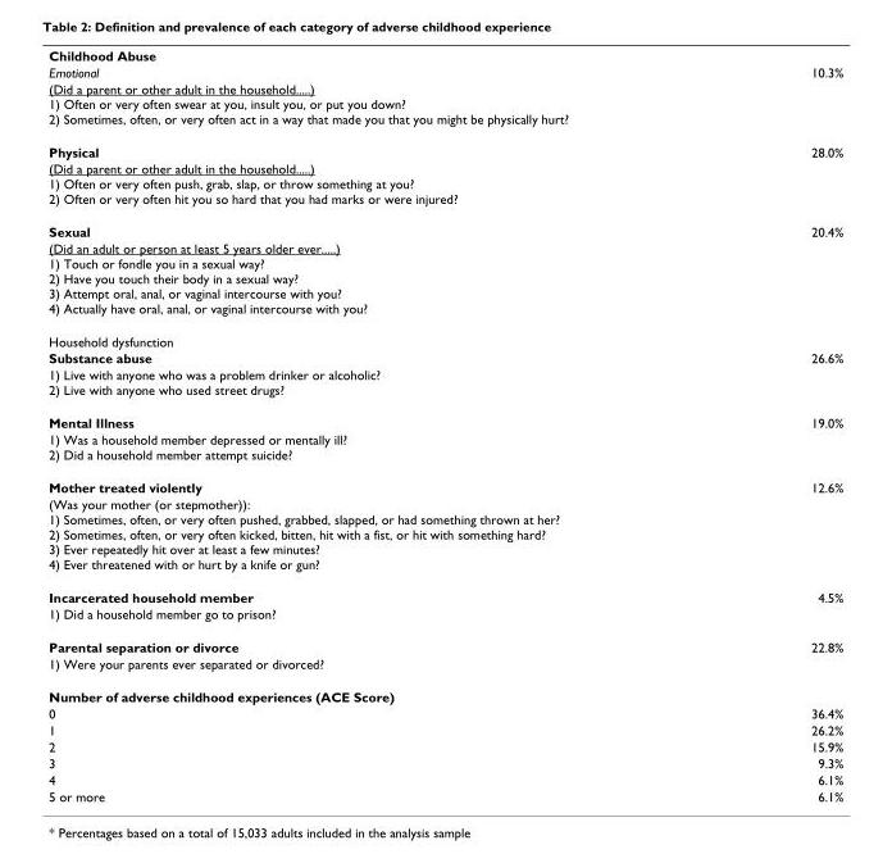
<table><tbody><tr><td colspan="2">Childhood Abuse</td></tr><tr><td>Emotional</td><td>10.3%</td></tr><tr><td colspan="2">(Did a parent or other adult in the household.....) 1) Often or very often swear at you, insult you, or put you down? 2) Sometimes, often, or very often act in a way that made you that you might be physically hurt?</td></tr><tr><td>Physical</td><td>28.0%</td></tr><tr><td colspan="2">(Did a parent or other adult in the household.....) 1) Often or very often push, grab, slap, or throw something at you? 2) Often or very often hit you so hard that you had marks or were injured?</td></tr><tr><td>Sexual</td><td>20.4%</td></tr><tr><td colspan="2">(Did an adult or person at least 5 years older ever.....) 1) Touch or fondle you in a sexual way? 2) Have you touch their body in a sexual way? 3) Attempt oral, anal, or vaginal intercourse with you? 4) Actually have oral, anal, or vaginal intercourse with you?</td></tr><tr><td colspan="2">Household dysfunction</td></tr><tr><td>Substance abuse</td><td>26.6%</td></tr><tr><td colspan="2">1) Live with anyone who was a problem drinker or alcoholic? 2) Live with anyone who used street drugs?</td></tr><tr><td>Mental Illness</td><td>19.0%</td></tr><tr><td colspan="2">1) Was a household member depressed or mentally ill? 2) Did a household member attempt suicide?</td></tr><tr><td>Mother treated violently</td><td>12.6%</td></tr><tr><td colspan="2">(Was your mother (or stepmother)): 1) Sometimes, often, or very often pushed, grabbed, slapped, or had something thrown at her? 2) Sometimes, often, or very often kicked, bitten, hit with a fist, or hit with something hard? 3) Ever repeatedly hit over at least a few minutes? 4) Ever threatened with or hurt by a knife or gun?</td></tr><tr><td>Incarcerated household member</td><td>4.5%</td></tr><tr><td colspan="2">1) Did a household member go to prison?</td></tr><tr><td>Parental separation or divorce</td><td>22.8%</td></tr><tr><td colspan="2">1) Were your parents ever separated or divorced?</td></tr><tr><td colspan="2">Number of adverse childhood experiences (ACE Score)</td></tr><tr><td>0</td><td>36.4%</td></tr><tr><td>1</td><td>26.2%</td></tr><tr><td>2</td><td>15.9%</td></tr><tr><td>3</td><td>9.3%</td></tr><tr><td>4</td><td>6.1%</td></tr><tr><td>5 or more</td><td>6.1%</td></tr></tbody></table>